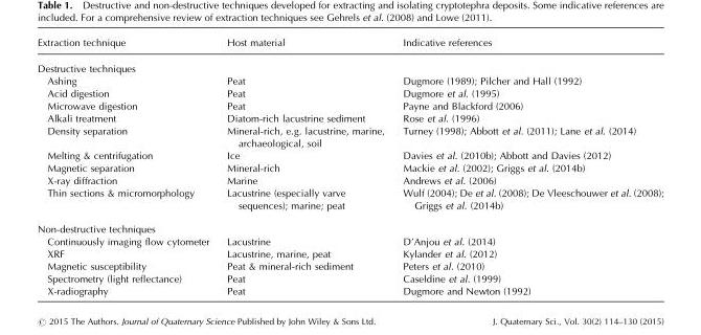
<table><thead><tr><td>Extraction technique</td><td>Host material</td><td>Indicative references</td></tr></thead><tbody><tr><td colspan="3">Destructive techniques</td></tr><tr><td>Ashing</td><td>Peat</td><td>Dugmore (1989); Pilcher and Hall (1992)</td></tr><tr><td>Acid digestion</td><td>Peat</td><td>Dugmore et al. (1995)</td></tr><tr><td>Microwave digestion</td><td>Peat</td><td>Payne and Blackford (2006)</td></tr><tr><td>Alkali treatment</td><td>Diatom-rich lacustrine sediment</td><td>Rose et al. (1996)</td></tr><tr><td>Density separation</td><td>Mineral-rich, e.g. lacustrine, marine, archaeological, soil</td><td>Turney (1998); Abbott et al. (2011); Lane et al. (2014)</td></tr><tr><td>Melting &amp; centrifugation</td><td>Ice</td><td>Davies et al. (2010b); Abbott and Davies (2012)</td></tr><tr><td>Magnetic separation</td><td>Mineral-rich</td><td>Mackie et al. (2002); Griggs et al. (2014b)</td></tr><tr><td>X-ray diffraction</td><td>Marine</td><td>Andrews et al. (2006)</td></tr><tr><td>Thin sections &amp; micromorphology</td><td>Lacustrine (especially varve sequences); marine; peat</td><td>Wulf (2004); De et al. (2008); De Vleeschouwer et al. (2008); Griggs et al. (2014b)</td></tr><tr><td colspan="3">Non-destructive techniques</td></tr><tr><td>Continuously imaging flow cytometer</td><td>Lacustrine</td><td>D’Anjou et al. (2014)</td></tr><tr><td>XRF</td><td>Lacustrine, marine, peat</td><td>Kylander et al. (2012)</td></tr><tr><td>Magnetic susceptibility</td><td>Peat &amp; mineral-rich sediment</td><td>Peters et al. (2010)</td></tr><tr><td>Spectrometry (light reflectance)</td><td>Peat</td><td>Caseldine et al. (1999)</td></tr><tr><td>X-radiography</td><td>Peat</td><td>Dugmore and Newton (1992)</td></tr></tbody></table>